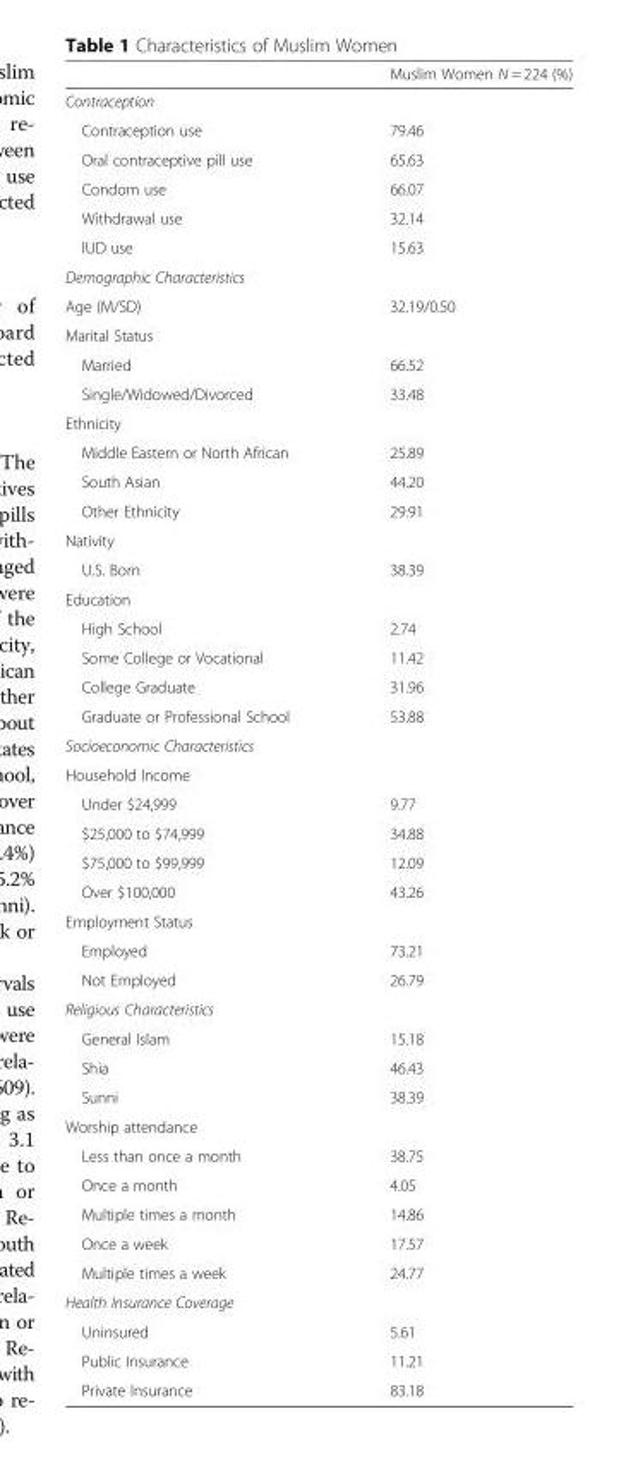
<table><thead><tr><td></td><td>Muslim Women N = 224 (%)</td></tr></thead><tbody><tr><td colspan="2">Contraception</td></tr><tr><td>Contraception use</td><td>79.46</td></tr><tr><td>Oral contraceptive pill use</td><td>65.63</td></tr><tr><td>Condom use</td><td>66.07</td></tr><tr><td>Withdrawal use</td><td>32.14</td></tr><tr><td>IUD use</td><td>15.63</td></tr><tr><td colspan="2">Demographic Characteristics</td></tr><tr><td>Age (M/SD)</td><td>32.19/0.50</td></tr><tr><td colspan="2">Marital Status</td></tr><tr><td>Married</td><td>66.52</td></tr><tr><td>Single/Widowed/Divorced</td><td>33.48</td></tr><tr><td colspan="2">Ethnicity</td></tr><tr><td>Middle Eastern or North African</td><td>25.89</td></tr><tr><td>South Asian</td><td>44.20</td></tr><tr><td>Other Ethnicity</td><td>29.91</td></tr><tr><td colspan="2">Nativity</td></tr><tr><td>U.S. Born</td><td>38.39</td></tr><tr><td colspan="2">Education</td></tr><tr><td>High School</td><td>2.74</td></tr><tr><td>Some College or Vocational</td><td>11.42</td></tr><tr><td>College Graduate</td><td>31.96</td></tr><tr><td>Graduate or Professional School</td><td>53.88</td></tr><tr><td colspan="2">Socioeconomic Characteristics</td></tr><tr><td colspan="2">Household Income</td></tr><tr><td>Under $24,999</td><td>9.77</td></tr><tr><td>$25,000 to $74,999</td><td>34.88</td></tr><tr><td>$75,000 to $99,999</td><td>12.09</td></tr><tr><td>Over $100,000</td><td>43.26</td></tr><tr><td colspan="2">Employment Status</td></tr><tr><td>Employed</td><td>73.21</td></tr><tr><td>Not Employed</td><td>26.79</td></tr><tr><td colspan="2">Religious Characteristics</td></tr><tr><td>General Islam</td><td>15.18</td></tr><tr><td>Shia</td><td>46.43</td></tr><tr><td>Sunni</td><td>38.39</td></tr><tr><td colspan="2">Worship attendance</td></tr><tr><td>Less than once a month</td><td>38.75</td></tr><tr><td>Once a month</td><td>4.05</td></tr><tr><td>Multiple times a month</td><td>14.86</td></tr><tr><td>Once a week</td><td>17.57</td></tr><tr><td>Multiple times a week</td><td>24.77</td></tr><tr><td colspan="2">Health Insurance Coverage</td></tr><tr><td>Uninsured</td><td>5.61</td></tr><tr><td>Public Insurance</td><td>11.21</td></tr><tr><td>Private Insurance</td><td>83.18</td></tr></tbody></table>